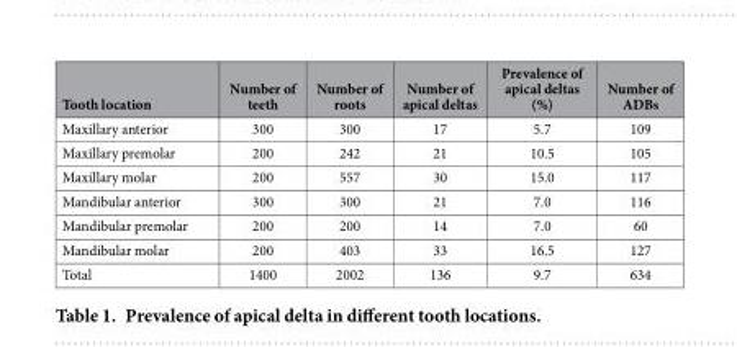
<table><thead><tr><td>Tooth location</td><td>Number of teeth</td><td>Number of roots</td><td>Number of apical deltas</td><td>Prevalence of apical deltas (%)</td><td>Number of ADBs</td></tr></thead><tbody><tr><td>Maxillary anterior</td><td>300</td><td>300</td><td>17</td><td>5.7</td><td>109</td></tr><tr><td>Maxillary premolar</td><td>200</td><td>242</td><td>21</td><td>10.5</td><td>105</td></tr><tr><td>Maxillary molar</td><td>200</td><td>557</td><td>30</td><td>15.0</td><td>117</td></tr><tr><td>Mandibular anterior</td><td>300</td><td>300</td><td>21</td><td>7.0</td><td>116</td></tr><tr><td>Mandibular premolar</td><td>200</td><td>200</td><td>14</td><td>7.0</td><td>60</td></tr><tr><td>Mandibular molar</td><td>200</td><td>403</td><td>33</td><td>16.5</td><td>127</td></tr><tr><td>Total</td><td>1400</td><td>2002</td><td>136</td><td>9.7</td><td>634</td></tr></tbody></table>